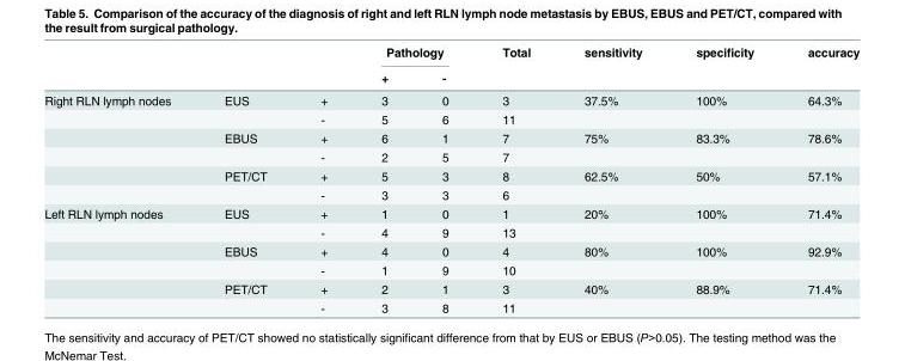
<table><thead><tr><td rowspan="2"></td><td rowspan="2"></td><td rowspan="2"></td><td colspan="2">Pathology</td><td rowspan="2">Total</td><td rowspan="2">sensitivity</td><td rowspan="2">specificity</td><td rowspan="2">accuracy</td></tr><tr><td>+</td><td>-</td></tr></thead><tbody><tr><td rowspan="6">Right RLN lymph nodes</td><td>EUS</td><td>+</td><td>3</td><td>0</td><td>3</td><td>37.5%</td><td>100%</td><td>64.3%</td></tr><tr><td></td><td>-</td><td>5</td><td>6</td><td>11</td><td></td><td></td><td></td></tr><tr><td>EBUS</td><td>+</td><td>6</td><td>1</td><td>7</td><td>75%</td><td>83.3%</td><td>78.6%</td></tr><tr><td></td><td>-</td><td>2</td><td>5</td><td>7</td><td></td><td></td><td></td></tr><tr><td>PET/CT</td><td>+</td><td>5</td><td>3</td><td>8</td><td>62.5%</td><td>50%</td><td>57.1%</td></tr><tr><td></td><td>-</td><td>3</td><td>3</td><td>6</td><td></td><td></td><td></td></tr><tr><td rowspan="6">Left RLN lymph nodes</td><td>EUS</td><td>+</td><td>1</td><td>0</td><td>1</td><td>20%</td><td>100%</td><td>71.4%</td></tr><tr><td></td><td>-</td><td>4</td><td>9</td><td>13</td><td></td><td></td><td></td></tr><tr><td>EBUS</td><td>+</td><td>4</td><td>0</td><td>4</td><td>80%</td><td>100%</td><td>92.9%</td></tr><tr><td></td><td>-</td><td>1</td><td>9</td><td>10</td><td></td><td></td><td></td></tr><tr><td>PET/CT</td><td>+</td><td>2</td><td>1</td><td>3</td><td>40%</td><td>88.9%</td><td>71.4%</td></tr><tr><td></td><td>-</td><td>3</td><td>8</td><td>11</td><td></td><td></td><td></td></tr></tbody></table>